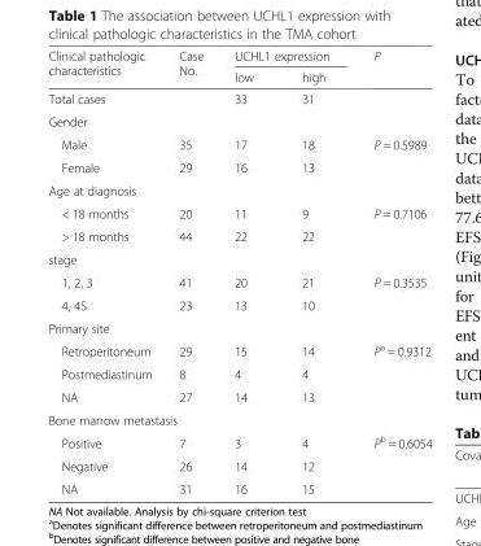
<table><thead><tr><td rowspan="2">Clinical pathologic characteristics</td><td rowspan="2">Case No.</td><td colspan="2">UCHL1 expression</td><td rowspan="2">P</td></tr><tr><td>low</td><td>high</td></tr></thead><tbody><tr><td>Total cases</td><td></td><td>33</td><td>31</td><td></td></tr><tr><td colspan="5">Gender</td></tr><tr><td>Male</td><td>35</td><td>17</td><td>18</td><td>P = 0.5989</td></tr><tr><td>Female</td><td>29</td><td>16</td><td>13</td><td></td></tr><tr><td colspan="5">Age at diagnosis</td></tr><tr><td>&lt; 18 months</td><td>20</td><td>11</td><td>9</td><td>P = 0.7106</td></tr><tr><td>&gt; 18 months</td><td>44</td><td>22</td><td>22</td><td></td></tr><tr><td colspan="5">stage</td></tr><tr><td>1, 2, 3</td><td>41</td><td>20</td><td>21</td><td>P = 0.3535</td></tr><tr><td>4, 4S</td><td>23</td><td>13</td><td>10</td><td></td></tr><tr><td colspan="5">Primary site</td></tr><tr><td>Retroperitoneum</td><td>29</td><td>15</td><td>14</td><td>P<sup>a</sup> = 0.9312</td></tr><tr><td>Postmediastinum</td><td>8</td><td>4</td><td>4</td><td></td></tr><tr><td>NA</td><td>27</td><td>14</td><td>13</td><td></td></tr><tr><td colspan="5">Bone marrow metastasis</td></tr><tr><td>Positive</td><td>7</td><td>3</td><td>4</td><td>P<sup>b</sup> = 0.6054</td></tr><tr><td>Negative</td><td>26</td><td>14</td><td>12</td><td></td></tr><tr><td>NA</td><td>31</td><td>16</td><td>15</td><td></td></tr></tbody></table>